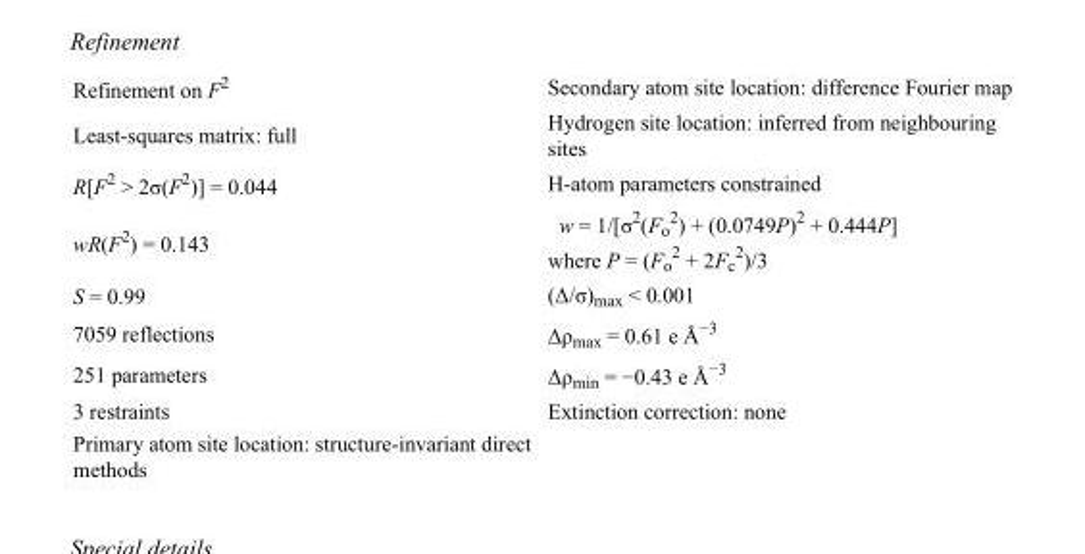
<table><tbody><tr><td>Refinement on F<sup>2</sup></td><td>Secondary atom site location: difference Fourier map</td></tr><tr><td>Least-squares matrix: full</td><td>Hydrogen site location: inferred from neighbouring sites</td></tr><tr><td>R[F<sup>2</sup> &gt; 2σ(F<sup>2</sup>)] = 0.044</td><td>H-atom parameters constrained</td></tr><tr><td>wR(F<sup>2</sup>) = 0.143</td><td>w = 1/[σ<sup>2</sup>(F<sub>o</sub> <sup>2</sup>) + (0.0749P)<sup>2</sup> + 0.444P] where P = (F<sub>o</sub> <sup>2</sup> + 2F<sub>c</sub> <sup>2</sup>)/3</td></tr><tr><td>S = 0.99</td><td>(Δ/σ)<sub>max</sub> &lt; 0.001</td></tr><tr><td>7059 reflections</td><td>Δρ<sub>max</sub> = 0.61 e Å<sup>−3</sup></td></tr><tr><td>251 parameters</td><td>Δρ<sub>min</sub> = −0.43 e Å<sup>−3</sup></td></tr><tr><td>3 restraints</td><td>Extinction correction: none</td></tr><tr><td>Primary atom site location: structure-invariant direct methods</td><td></td></tr></tbody></table>